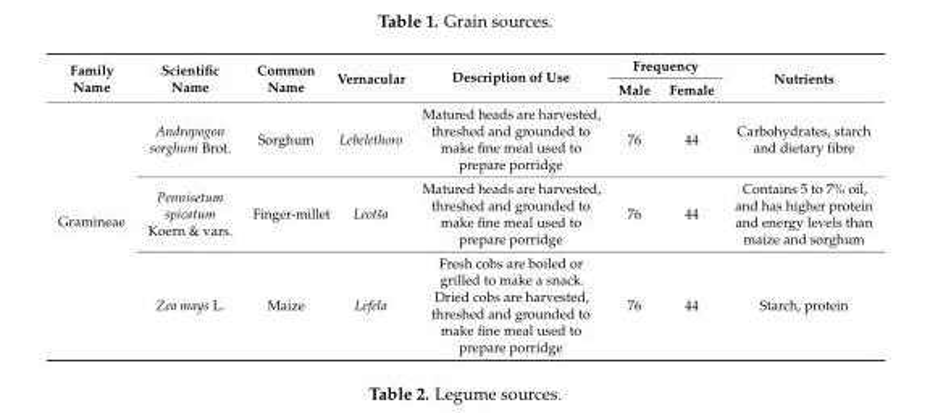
<table><thead><tr><td rowspan="2">Family Name</td><td rowspan="2">Scientific Name</td><td rowspan="2">Common Name</td><td rowspan="2">Vernacular</td><td rowspan="2">Description of Use</td><td colspan="2">Frequency</td><td rowspan="2">Nutrients</td></tr><tr><td>Male</td><td>Female</td></tr></thead><tbody><tr><td rowspan="3">Gramineae</td><td>Andropogon sorghum Brot.</td><td>Sorghum</td><td>Lebelethoro</td><td>Matured heads are harvested, threshed and grounded to make fine meal used to prepare porridge</td><td>76</td><td>44</td><td>Carbohydrates, starch and dietary fibre</td></tr><tr><td>Pennisetum spicatum Koern &amp; vars.</td><td>Finger-millet</td><td>Leotša</td><td>Matured heads are harvested, threshed and grounded to make fine meal used to prepare porridge</td><td>76</td><td>44</td><td>Contains 5 to 7% oil, and has higher protein and energy levels than maize and sorghum</td></tr><tr><td>Zea mays L.</td><td>Maize</td><td>Lefela</td><td>Fresh cobs are boiled or grilled to make a snack. Dried cobs are harvested, threshed and grounded to make fine meal used to prepare porridge</td><td>76</td><td>44</td><td>Starch, protein</td></tr></tbody></table>